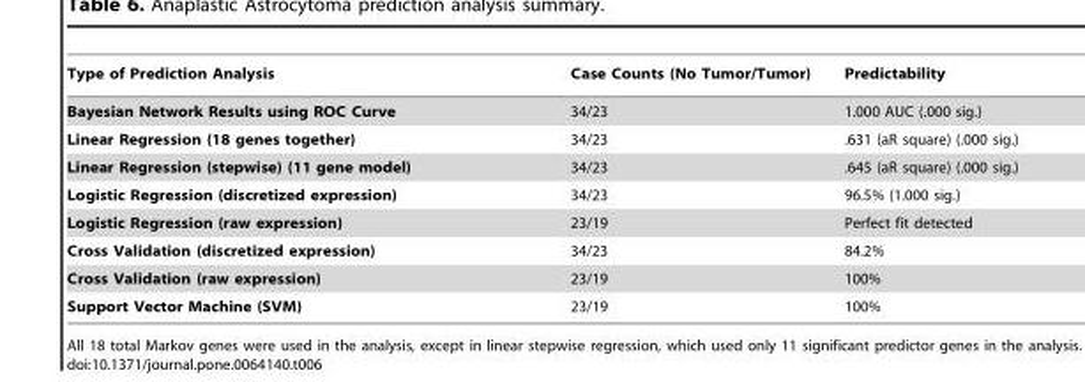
<table><thead><tr><td>Type of Prediction Analysis</td><td>Case Counts (No Tumor/Tumor)</td><td>Predictability</td></tr></thead><tbody><tr><td>Bayesian Network Results using ROC Curve</td><td>34/23</td><td>1.000 AUC (.000 sig.)</td></tr><tr><td>Linear Regression (18 genes together)</td><td>34/23</td><td>.631 (aR square) (.000 sig.)</td></tr><tr><td>Linear Regression (stepwise) (11 gene model)</td><td>34/23</td><td>.645 (aR square) (.000 sig.)</td></tr><tr><td>Logistic Regression (discretized expression)</td><td>34/23</td><td>96.5% (1.000 sig.)</td></tr><tr><td>Logistic Regression (raw expression)</td><td>23/19</td><td>Perfect fit detected</td></tr><tr><td>Cross Validation (discretized expression)</td><td>34/23</td><td>84.2%</td></tr><tr><td>Cross Validation (raw expression)</td><td>23/19</td><td>100%</td></tr><tr><td>Support Vector Machine (SVM)</td><td>23/19</td><td>100%</td></tr></tbody></table>